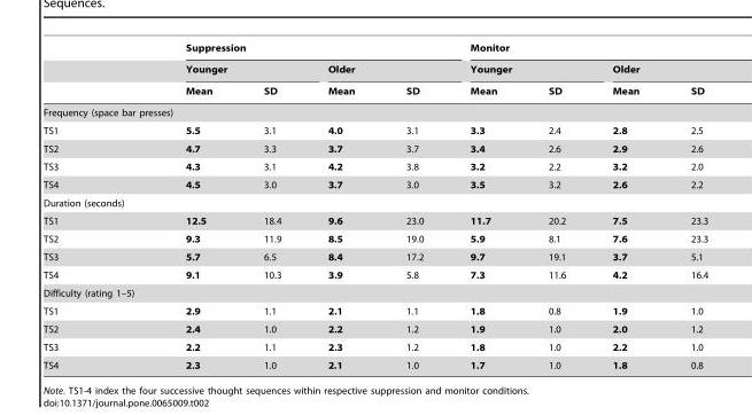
<table><thead><tr><td rowspan="3"></td><td colspan="4">Suppression</td><td colspan="4">Monitor</td></tr><tr><td colspan="2">Younger</td><td colspan="2">Older</td><td colspan="2">Younger</td><td colspan="2">Older</td></tr><tr><td>Mean</td><td>SD</td><td>Mean</td><td>SD</td><td>Mean</td><td>SD</td><td>Mean</td><td>SD</td></tr></thead><tbody><tr><td colspan="9">Frequency (space bar presses)</td></tr><tr><td>TS1</td><td>5.5</td><td>3.1</td><td>4.0</td><td>3.1</td><td>3.3</td><td>2.4</td><td>2.8</td><td>2.5</td></tr><tr><td>TS2</td><td>4.7</td><td>3.3</td><td>3.7</td><td>3.7</td><td>3.4</td><td>2.6</td><td>2.9</td><td>2.6</td></tr><tr><td>TS3</td><td>4.3</td><td>3.1</td><td>4.2</td><td>3.8</td><td>3.2</td><td>2.2</td><td>3.2</td><td>2.0</td></tr><tr><td>TS4</td><td>4.5</td><td>3.0</td><td>3.7</td><td>3.0</td><td>3.5</td><td>3.2</td><td>2.6</td><td>2.2</td></tr><tr><td colspan="9">Duration (seconds)</td></tr><tr><td>TS1</td><td>12.5</td><td>18.4</td><td>9.6</td><td>23.0</td><td>11.7</td><td>20.2</td><td>7.5</td><td>23.3</td></tr><tr><td>TS2</td><td>9.3</td><td>11.9</td><td>8.5</td><td>19.0</td><td>5.9</td><td>8.1</td><td>7.6</td><td>23.3</td></tr><tr><td>TS3</td><td>5.7</td><td>6.5</td><td>8.4</td><td>17.2</td><td>9.7</td><td>19.1</td><td>3.7</td><td>5.1</td></tr><tr><td>TS4</td><td>9.1</td><td>10.3</td><td>3.9</td><td>5.8</td><td>7.3</td><td>11.6</td><td>4.2</td><td>16.4</td></tr><tr><td colspan="9">Difficulty (rating 1–5)</td></tr><tr><td>TS1</td><td>2.9</td><td>1.1</td><td>2.1</td><td>1.1</td><td>1.8</td><td>0.8</td><td>1.9</td><td>1.0</td></tr><tr><td>TS2</td><td>2.4</td><td>1.0</td><td>2.2</td><td>1.2</td><td>1.9</td><td>1.0</td><td>2.0</td><td>1.2</td></tr><tr><td>TS3</td><td>2.2</td><td>1.1</td><td>2.3</td><td>1.2</td><td>1.8</td><td>1.0</td><td>2.2</td><td>1.0</td></tr><tr><td>TS4</td><td>2.3</td><td>1.0</td><td>2.1</td><td>1.0</td><td>1.7</td><td>1.0</td><td>1.8</td><td>0.8</td></tr></tbody></table>